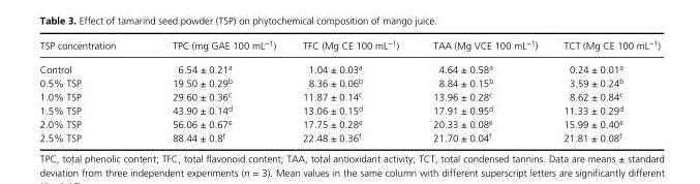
<table><thead><tr><td>TSP concentration</td><td>TPC (mg GAE 100 mL<sup>−1</sup>)</td><td>TFC (Mg CE 100 mL<sup>−1</sup>)</td><td>TAA (Mg VCE 100 mL<sup>−1</sup>)</td><td>TCT (Mg CE 100 mL<sup>−1</sup>)</td></tr></thead><tbody><tr><td>Control</td><td>6.54 ± 0.21<sup>a</sup></td><td>1.04 ± 0.03<sup>a</sup></td><td>4.64 ± 0.58<sup>a</sup></td><td>0.24 ± 0.01<sup>a</sup></td></tr><tr><td>0.5% TSP</td><td>19.50 ± 0.29<sup>b</sup></td><td>8.36 ± 0.06<sup>b</sup></td><td>8.84 ± 0.15<sup>b</sup></td><td>3.59 ± 0.24<sup>b</sup></td></tr><tr><td>1.0% TSP</td><td>29.60 ± 0.36<sup>c</sup></td><td>11.87 ± 0.14<sup>c</sup></td><td>13.96 ± 0.28<sup>c</sup></td><td>8.62 ± 0.84<sup>c</sup></td></tr><tr><td>1.5% TSP</td><td>43.90 ± 0.14<sup>d</sup></td><td>13.06 ± 0.15<sup>d</sup></td><td>17.91 ± 0.95<sup>d</sup></td><td>11.33 ± 0.29<sup>d</sup></td></tr><tr><td>2.0% TSP</td><td>56.06 ± 0.67<sup>e</sup></td><td>17.75 ± 0.28<sup>e</sup></td><td>20.33 ± 0.08<sup>e</sup></td><td>15.99 ± 0.40<sup>e</sup></td></tr><tr><td>2.5% TSP</td><td>88.44 ± 0.8<sup>f</sup></td><td>22.48 ± 0.36<sup>f</sup></td><td>21.70 ± 0.04<sup>f</sup></td><td>21.81 ± 0.08<sup>f</sup></td></tr></tbody></table>